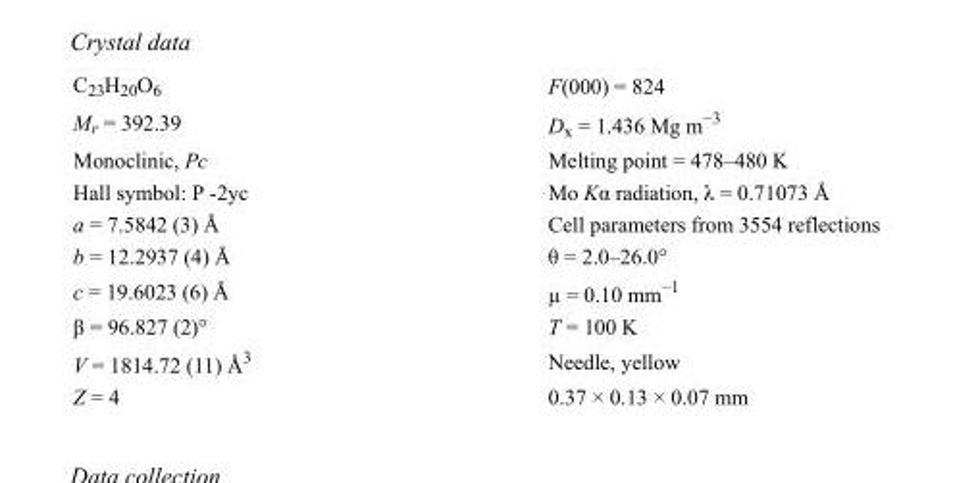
<table><tbody><tr><td>C<sub>23</sub>H<sub>20</sub>O<sub>6</sub></td><td>F(000) = 824</td></tr><tr><td>M<sub>r</sub> = 392.39</td><td>D<sub>x</sub> = 1.436 Mg m<sup>−3</sup></td></tr><tr><td>Monoclinic, Pc</td><td>Melting point = 478–480 K</td></tr><tr><td>Hall symbol: P -2yc</td><td>Mo Kα radiation, λ = 0.71073 Å</td></tr><tr><td>a = 7.5842 (3) Å</td><td>Cell parameters from 3554 reflections</td></tr><tr><td>b = 12.2937 (4) Å</td><td>θ = 2.0–26.0°</td></tr><tr><td>c = 19.6023 (6) Å</td><td>µ = 0.10 mm<sup>−1</sup></td></tr><tr><td>β = 96.827 (2)°</td><td>T = 100 K</td></tr><tr><td>V = 1814.72 (11) Å<sup>3</sup></td><td>Needle, yellow</td></tr><tr><td>Z = 4</td><td>0.37 × 0.13 × 0.07 mm</td></tr></tbody></table>